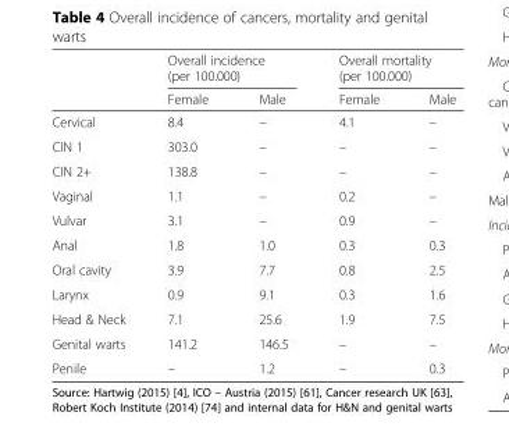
<table><thead><tr><td rowspan="2"></td><td colspan="2">Overall incidence (per 100.000)</td><td colspan="2">Overall mortality (per 100.000)</td></tr><tr><td>Female</td><td>Male</td><td>Female</td><td>Male</td></tr></thead><tbody><tr><td>Cervical</td><td>8.4</td><td>–</td><td>4.1</td><td>–</td></tr><tr><td>CIN 1</td><td>303.0</td><td>–</td><td>–</td><td>–</td></tr><tr><td>CIN 2+</td><td>138.8</td><td>–</td><td>–</td><td>–</td></tr><tr><td>Vaginal</td><td>1.1</td><td>–</td><td>0.2</td><td>–</td></tr><tr><td>Vulvar</td><td>3.1</td><td>–</td><td>0.9</td><td>–</td></tr><tr><td>Anal</td><td>1.8</td><td>1.0</td><td>0.3</td><td>0.3</td></tr><tr><td>Oral cavity</td><td>3.9</td><td>7.7</td><td>0.8</td><td>2.5</td></tr><tr><td>Larynx</td><td>0.9</td><td>9.1</td><td>0.3</td><td>1.6</td></tr><tr><td>Head &amp; Neck</td><td>7.1</td><td>25.6</td><td>1.9</td><td>7.5</td></tr><tr><td>Genital warts</td><td>141.2</td><td>146.5</td><td>–</td><td>–</td></tr><tr><td>Penile</td><td>–</td><td>1.2</td><td>–</td><td>0.3</td></tr></tbody></table>